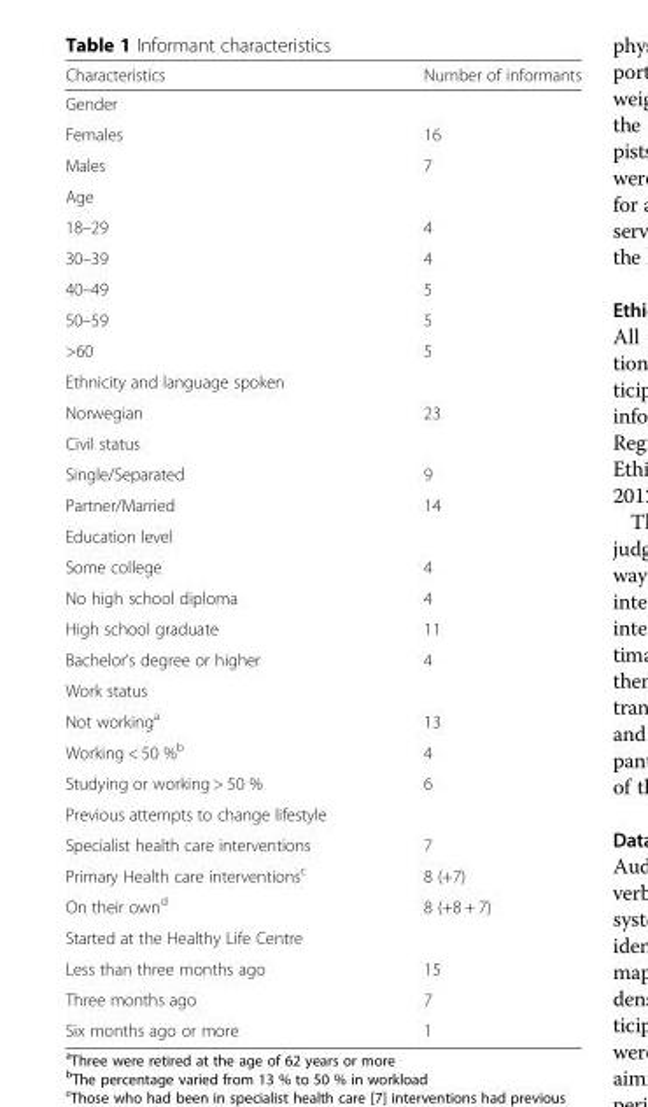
<table><thead><tr><td>Characteristics</td><td>Number of informants</td></tr></thead><tbody><tr><td colspan="2">Gender</td></tr><tr><td>Females</td><td>16</td></tr><tr><td>Males</td><td>7</td></tr><tr><td colspan="2">Age</td></tr><tr><td>18–29</td><td>4</td></tr><tr><td>30–39</td><td>4</td></tr><tr><td>40–49</td><td>5</td></tr><tr><td>50–59</td><td>5</td></tr><tr><td>&gt;60</td><td>5</td></tr><tr><td colspan="2">Ethnicity and language spoken</td></tr><tr><td>Norwegian</td><td>23</td></tr><tr><td colspan="2">Civil status</td></tr><tr><td>Single/Separated</td><td>9</td></tr><tr><td>Partner/Married</td><td>14</td></tr><tr><td colspan="2">Education level</td></tr><tr><td>Some college</td><td>4</td></tr><tr><td>No high school diploma</td><td>4</td></tr><tr><td>High school graduate</td><td>11</td></tr><tr><td>Bachelor’s degree or higher</td><td>4</td></tr><tr><td colspan="2">Work status</td></tr><tr><td>Not working<sup>a</sup></td><td>13</td></tr><tr><td>Working &lt; 50 %<sup>b</sup></td><td>4</td></tr><tr><td>Studying or working &gt; 50 %</td><td>6</td></tr><tr><td colspan="2">Previous attempts to change lifestyle</td></tr><tr><td>Specialist health care interventions</td><td>7</td></tr><tr><td>Primary Health care interventions<sup>c</sup></td><td>8 (+7)</td></tr><tr><td>On their own<sup>d</sup></td><td>8 (+8 + 7)</td></tr><tr><td colspan="2">Started at the Healthy Life Centre</td></tr><tr><td>Less than three months ago</td><td>15</td></tr><tr><td>Three months ago</td><td>7</td></tr><tr><td>Six months ago or more</td><td>1</td></tr></tbody></table>